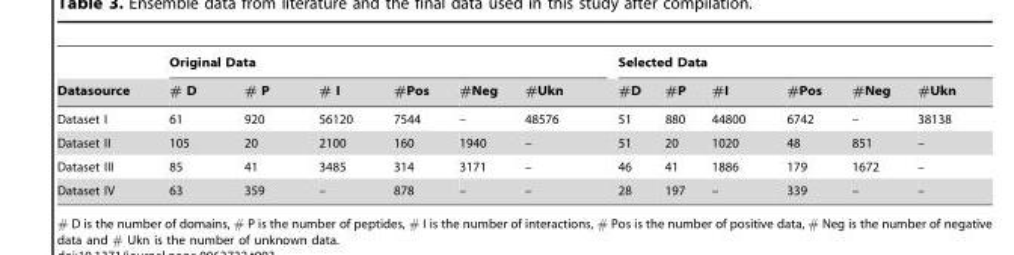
<table><thead><tr><td rowspan="2">Datasource</td><td colspan="6">Original Data</td><td colspan="6">Selected Data</td></tr><tr><td># D</td><td># P</td><td># I</td><td>#Pos</td><td>#Neg</td><td>#Ukn</td><td>#D</td><td>#P</td><td>#I</td><td>#Pos</td><td>#Neg</td><td>#Ukn</td></tr></thead><tbody><tr><td>Dataset I</td><td>61</td><td>920</td><td>56120</td><td>7544</td><td>–</td><td>48576</td><td>51</td><td>880</td><td>44800</td><td>6742</td><td>–</td><td>38138</td></tr><tr><td>Dataset II</td><td>105</td><td>20</td><td>2100</td><td>160</td><td>1940</td><td>–</td><td>51</td><td>20</td><td>1020</td><td>48</td><td>851</td><td>–</td></tr><tr><td>Dataset III</td><td>85</td><td>41</td><td>3485</td><td>314</td><td>3171</td><td>–</td><td>46</td><td>41</td><td>1886</td><td>179</td><td>1672</td><td>–</td></tr><tr><td>Dataset IV</td><td>63</td><td>359</td><td>–</td><td>878</td><td>–</td><td>–</td><td>28</td><td>197</td><td>–</td><td>339</td><td>–</td><td>–</td></tr></tbody></table>